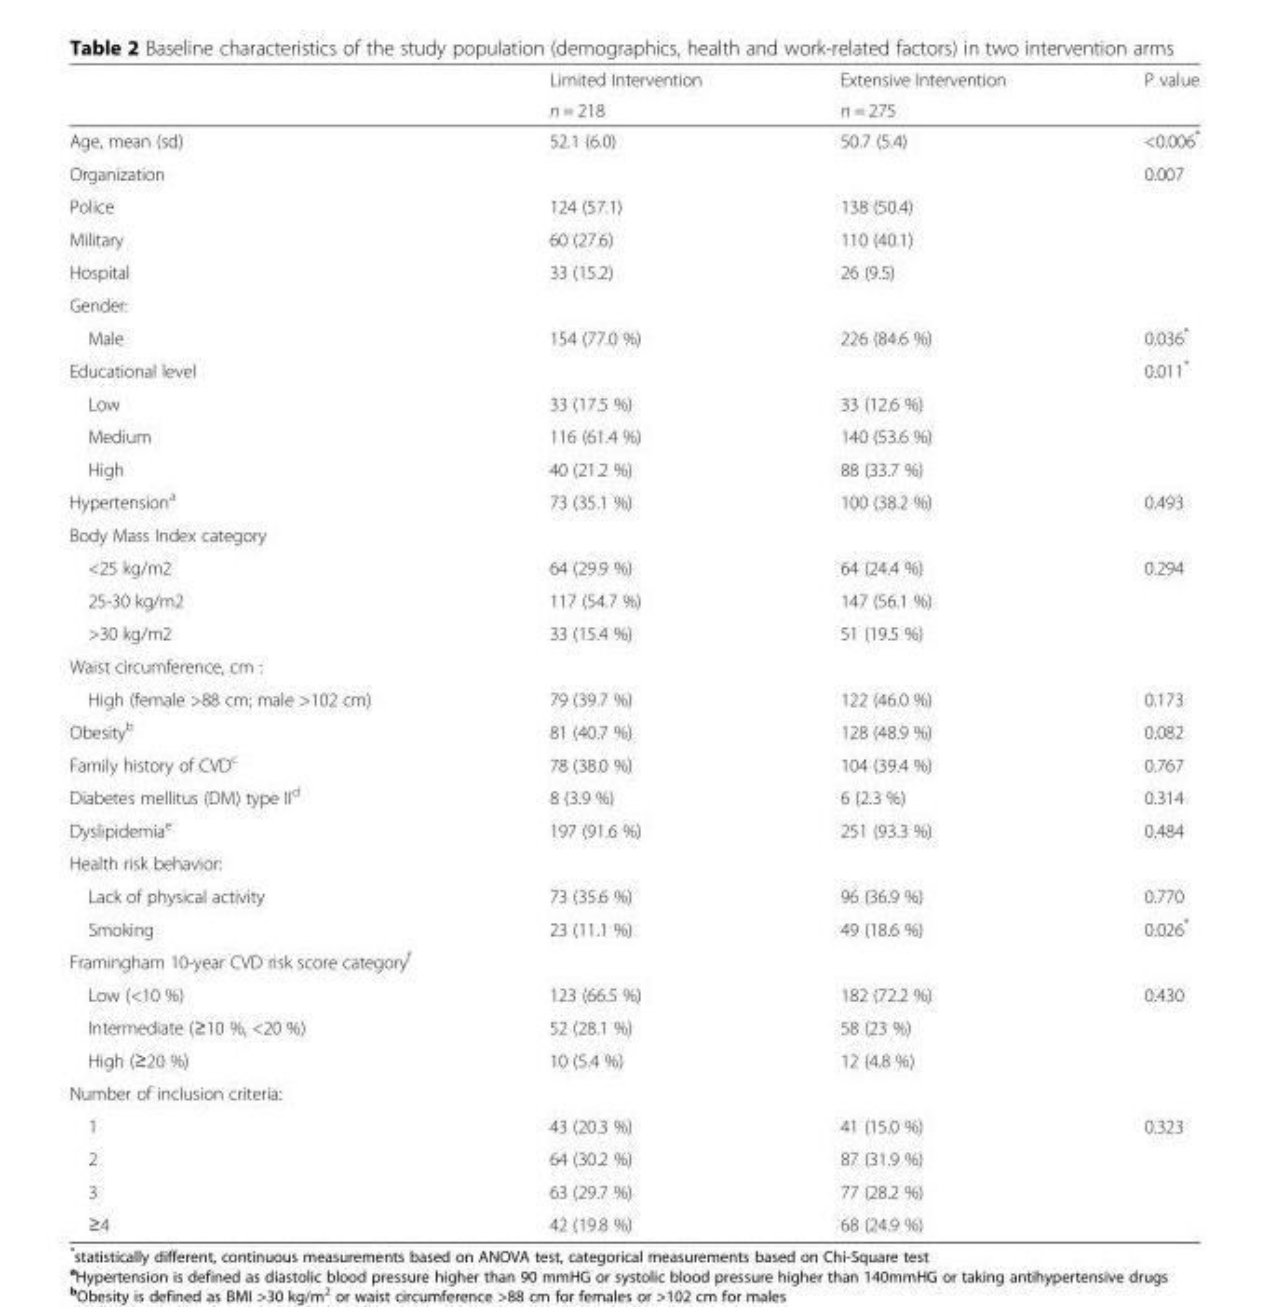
<table><thead><tr><td rowspan="2"></td><td rowspan="2">Limited Intervention n = 218</td><td rowspan="2">Extensive Intervention n = 275</td><td rowspan="2">P value</td></tr><tr></tr></thead><tbody><tr><td>Age, mean (sd)</td><td>52.1 (6.0)</td><td>50.7 (5.4)</td><td>&lt;0.006*</td></tr><tr><td>Organization</td><td></td><td></td><td>0.007</td></tr><tr><td>Police</td><td>124 (57.1)</td><td>138 (50.4)</td><td></td></tr><tr><td>Military</td><td>60 (27.6)</td><td>110 (40.1)</td><td></td></tr><tr><td>Hospital</td><td>33 (15.2)</td><td>26 (9.5)</td><td></td></tr><tr><td colspan="4">Gender:</td></tr><tr><td>Male</td><td>154 (77.0 %)</td><td>226 (84.6 %)</td><td>0.036*</td></tr><tr><td>Educational level</td><td></td><td></td><td>0.011*</td></tr><tr><td>Low</td><td>33 (17.5 %)</td><td>33 (12.6 %)</td><td></td></tr><tr><td>Medium</td><td>116 (61.4 %)</td><td>140 (53.6 %)</td><td></td></tr><tr><td>High</td><td>40 (21.2 %)</td><td>88 (33.7 %)</td><td></td></tr><tr><td>Hypertension<sup>a</sup></td><td>73 (35.1 %)</td><td>100 (38.2 %)</td><td>0.493</td></tr><tr><td colspan="4">Body Mass Index category</td></tr><tr><td>&lt;25 kg/m2</td><td>64 (29.9 %)</td><td>64 (24.4 %)</td><td rowspan="3">0.294</td></tr><tr><td>25-30 kg/m2</td><td>117 (54.7 %)</td><td>147 (56.1 %)</td></tr><tr><td>&gt;30 kg/m2</td><td>33 (15.4 %)</td><td>51 (19.5 %)</td></tr><tr><td colspan="4">Waist circumference, cm :</td></tr><tr><td>High (female &gt;88 cm; male &gt;102 cm)</td><td>79 (39.7 %)</td><td>122 (46.0 %)</td><td>0.173</td></tr><tr><td>Obesity<sup>b</sup></td><td>81 (40.7 %)</td><td>128 (48.9 %)</td><td>0.082</td></tr><tr><td>Family history of CVD<sup>c</sup></td><td>78 (38.0 %)</td><td>104 (39.4 %)</td><td>0.767</td></tr><tr><td>Diabetes mellitus (DM) type II<sup>d</sup></td><td>8 (3.9 %)</td><td>6 (2.3 %)</td><td>0.314</td></tr><tr><td>Dyslipidemia<sup>e</sup></td><td>197 (91.6 %)</td><td>251 (93.3 %)</td><td>0.484</td></tr><tr><td colspan="4">Health risk behavior:</td></tr><tr><td>Lack of physical activity</td><td>73 (35.6 %)</td><td>96 (36.9 %)</td><td>0.770</td></tr><tr><td>Smoking</td><td>23 (11.1 %)</td><td>49 (18.6 %)</td><td>0.026*</td></tr><tr><td colspan="4">Framingham 10-year CVD risk score category<sup>f</sup></td></tr><tr><td>Low (&lt;10 %)</td><td>123 (66.5 %)</td><td>182 (72.2 %)</td><td rowspan="3">0.430</td></tr><tr><td>Intermediate (≥10 %, &lt;20 %)</td><td>52 (28.1 %)</td><td>58 (23 %)</td></tr><tr><td>High (≥20 %)</td><td>10 (5.4 %)</td><td>12 (4.8 %)</td></tr><tr><td colspan="4">Number of inclusion criteria:</td></tr><tr><td>1</td><td>43 (20.3 %)</td><td>41 (15.0 %)</td><td rowspan="3">0.323</td></tr><tr><td>2</td><td>64 (30.2 %)</td><td>87 (31.9 %)</td></tr><tr><td>3</td><td>63 (29.7 %)</td><td>77 (28.2 %)</td></tr><tr><td>≥4</td><td>42 (19.8 %)</td><td>68 (24.9 %)</td><td></td></tr></tbody></table>